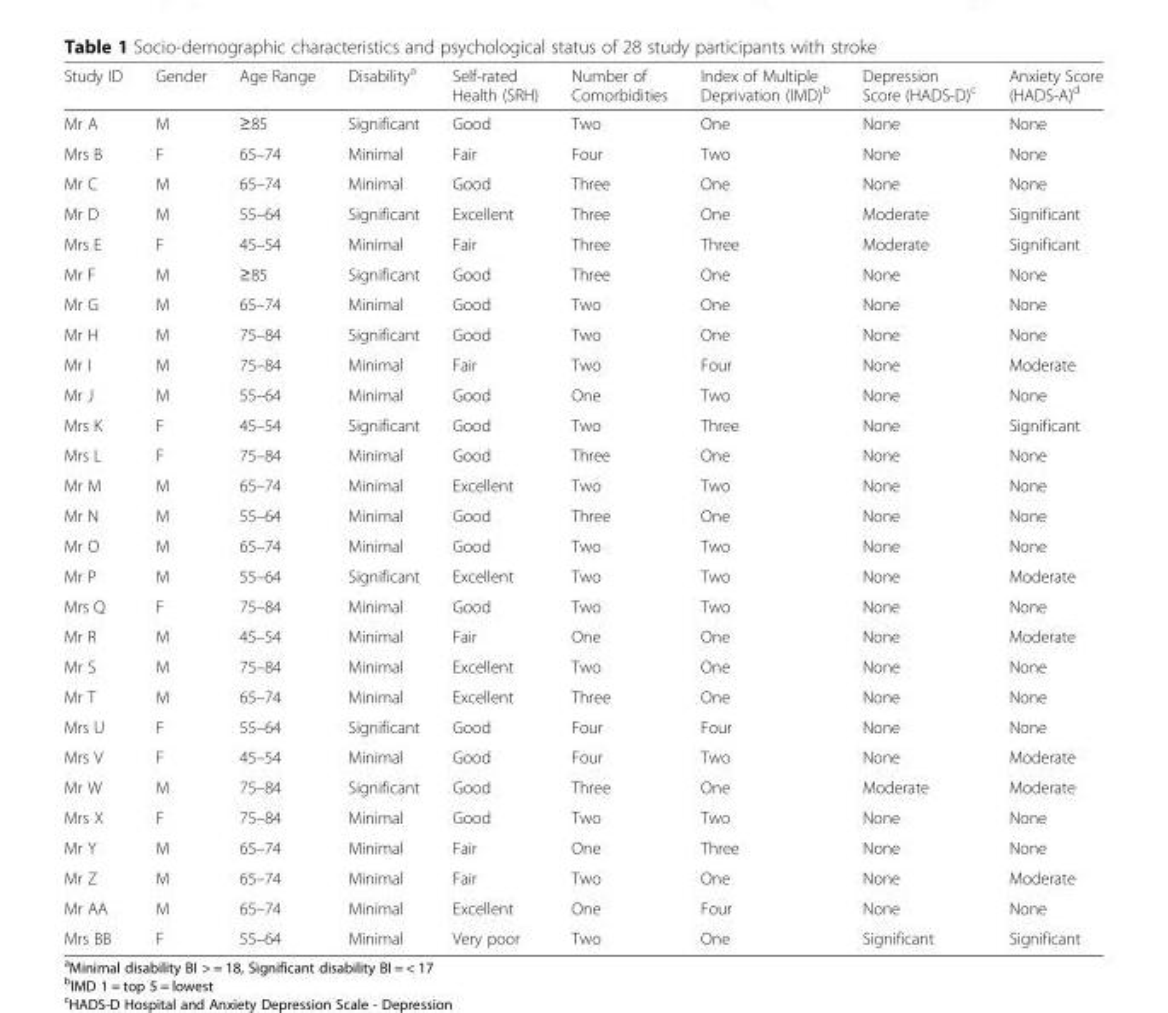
<table><thead><tr><td>Study ID</td><td>Gender</td><td>Age Range</td><td>Disability<sup>a</sup></td><td>Self-rated Health (SRH)</td><td>Number of Comorbidities</td><td>Index of Multiple Deprivation (IMD)<sup>b</sup></td><td>Depression Score (HADS-D)<sup>c</sup></td><td>Anxiety Score (HADS-A)<sup>d</sup></td></tr></thead><tbody><tr><td>Mr A</td><td>M</td><td>≥85</td><td>Significant</td><td>Good</td><td>Two</td><td>One</td><td>None</td><td>None</td></tr><tr><td>Mrs B</td><td>F</td><td>65–74</td><td>Minimal</td><td>Fair</td><td>Four</td><td>Two</td><td>None</td><td>None</td></tr><tr><td>Mr C</td><td>M</td><td>65–74</td><td>Minimal</td><td>Good</td><td>Three</td><td>One</td><td>None</td><td>None</td></tr><tr><td>Mr D</td><td>M</td><td>55–64</td><td>Significant</td><td>Excellent</td><td>Three</td><td>One</td><td>Moderate</td><td>Significant</td></tr><tr><td>Mrs E</td><td>F</td><td>45–54</td><td>Minimal</td><td>Fair</td><td>Three</td><td>Three</td><td>Moderate</td><td>Significant</td></tr><tr><td>Mr F</td><td>M</td><td>≥85</td><td>Significant</td><td>Good</td><td>Three</td><td>One</td><td>None</td><td>None</td></tr><tr><td>Mr G</td><td>M</td><td>65–74</td><td>Minimal</td><td>Good</td><td>Two</td><td>One</td><td>None</td><td>None</td></tr><tr><td>Mr H</td><td>M</td><td>75–84</td><td>Significant</td><td>Good</td><td>Two</td><td>One</td><td>None</td><td>None</td></tr><tr><td>Mr I</td><td>M</td><td>75–84</td><td>Minimal</td><td>Fair</td><td>Two</td><td>Four</td><td>None</td><td>Moderate</td></tr><tr><td>Mr J</td><td>M</td><td>55–64</td><td>Minimal</td><td>Good</td><td>One</td><td>Two</td><td>None</td><td>None</td></tr><tr><td>Mrs K</td><td>F</td><td>45–54</td><td>Significant</td><td>Good</td><td>Two</td><td>Three</td><td>None</td><td>Significant</td></tr><tr><td>Mrs L</td><td>F</td><td>75–84</td><td>Minimal</td><td>Good</td><td>Three</td><td>One</td><td>None</td><td>None</td></tr><tr><td>Mr M</td><td>M</td><td>65–74</td><td>Minimal</td><td>Excellent</td><td>Two</td><td>Two</td><td>None</td><td>None</td></tr><tr><td>Mr N</td><td>M</td><td>55–64</td><td>Minimal</td><td>Good</td><td>Three</td><td>One</td><td>None</td><td>None</td></tr><tr><td>Mr O</td><td>M</td><td>65–74</td><td>Minimal</td><td>Good</td><td>Two</td><td>Two</td><td>None</td><td>None</td></tr><tr><td>Mr P</td><td>M</td><td>55–64</td><td>Significant</td><td>Excellent</td><td>Two</td><td>Two</td><td>None</td><td>Moderate</td></tr><tr><td>Mrs Q</td><td>F</td><td>75–84</td><td>Minimal</td><td>Good</td><td>Two</td><td>Two</td><td>None</td><td>None</td></tr><tr><td>Mr R</td><td>M</td><td>45–54</td><td>Minimal</td><td>Fair</td><td>One</td><td>One</td><td>None</td><td>Moderate</td></tr><tr><td>Mr S</td><td>M</td><td>75–84</td><td>Minimal</td><td>Excellent</td><td>Two</td><td>One</td><td>None</td><td>None</td></tr><tr><td>Mr T</td><td>M</td><td>65–74</td><td>Minimal</td><td>Excellent</td><td>Three</td><td>One</td><td>None</td><td>None</td></tr><tr><td>Mrs U</td><td>F</td><td>55–64</td><td>Significant</td><td>Good</td><td>Four</td><td>Four</td><td>None</td><td>None</td></tr><tr><td>Mrs V</td><td>F</td><td>45–54</td><td>Minimal</td><td>Good</td><td>Four</td><td>Two</td><td>None</td><td>Moderate</td></tr><tr><td>Mr W</td><td>M</td><td>75–84</td><td>Significant</td><td>Good</td><td>Three</td><td>One</td><td>Moderate</td><td>Moderate</td></tr><tr><td>Mrs X</td><td>F</td><td>75–84</td><td>Minimal</td><td>Good</td><td>Two</td><td>Two</td><td>None</td><td>None</td></tr><tr><td>Mr Y</td><td>M</td><td>65–74</td><td>Minimal</td><td>Fair</td><td>One</td><td>Three</td><td>None</td><td>None</td></tr><tr><td>Mr Z</td><td>M</td><td>65–74</td><td>Minimal</td><td>Fair</td><td>Two</td><td>One</td><td>None</td><td>Moderate</td></tr><tr><td>Mr AA</td><td>M</td><td>65–74</td><td>Minimal</td><td>Excellent</td><td>One</td><td>Four</td><td>None</td><td>None</td></tr><tr><td>Mrs BB</td><td>F</td><td>55–64</td><td>Minimal</td><td>Very poor</td><td>Two</td><td>One</td><td>Significant</td><td>Significant</td></tr></tbody></table>